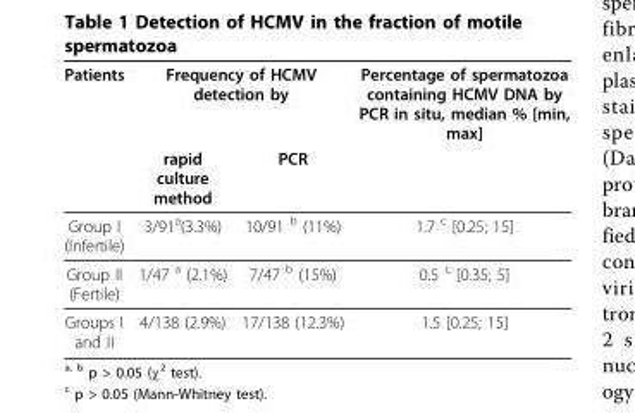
<table><thead><tr><td rowspan="2">Patients</td><td colspan="2">Frequency of HCMV detection by</td><td rowspan="2">Percentage of spermatozoa containing HCMV DNA by PCR in situ, median % [min, max]</td></tr><tr><td>rapid culture method</td><td>PCR</td></tr></thead><tbody><tr><td>Group I (Infertile)</td><td>3/91<sup>a</sup>(3.3%)</td><td>10/91 <sup>b</sup> (11%)</td><td>1.7 <sup>c</sup> [0.25; 15]</td></tr><tr><td>Group II (Fertile)</td><td>1/47 <sup>a</sup> (2.1%)</td><td>7/47 <sup>b</sup> (15%)</td><td>0.5 <sup>c</sup> [0.35; 5]</td></tr><tr><td>Groups I and II</td><td>4/138 (2.9%)</td><td>17/138 (12.3%)</td><td>1.5 [0.25; 15]</td></tr></tbody></table>